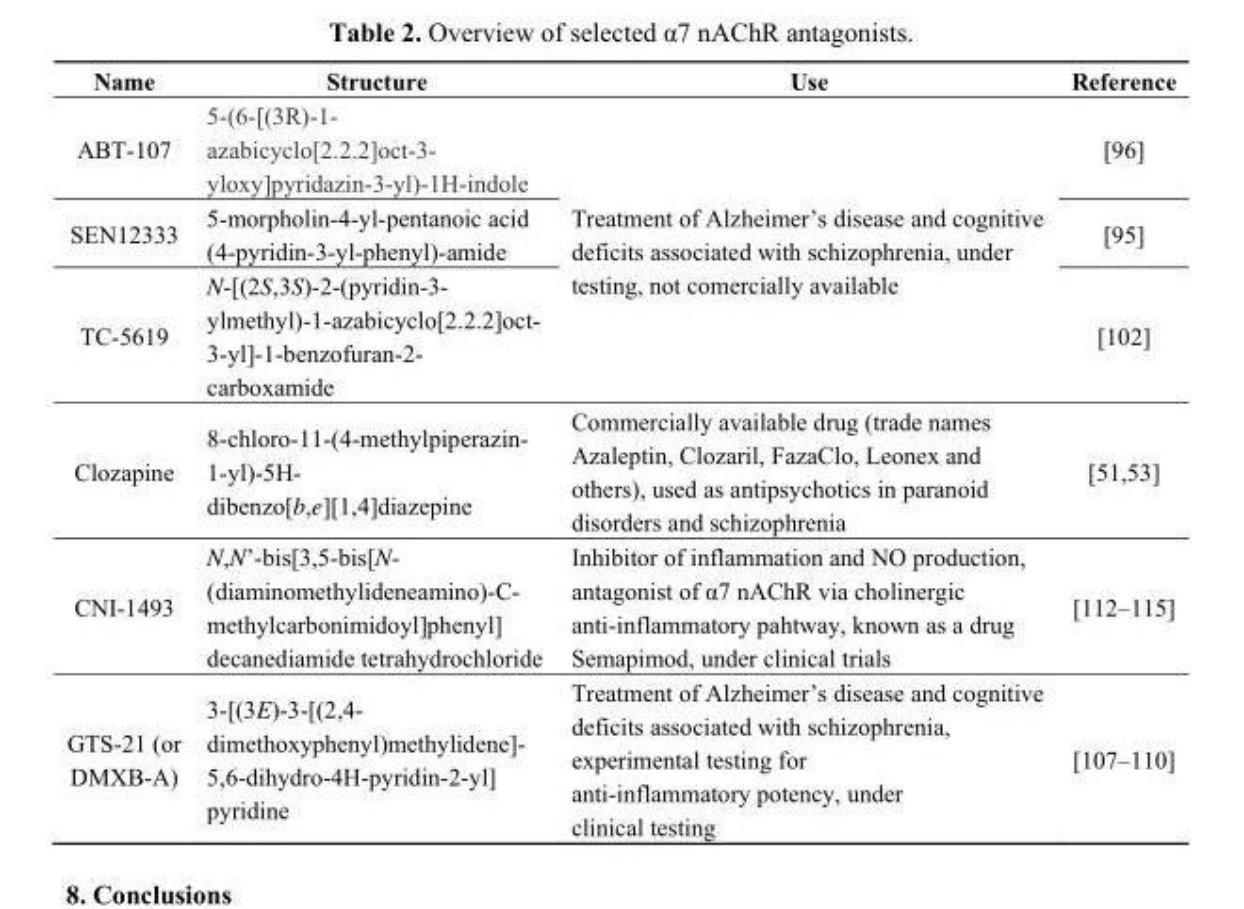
<table><thead><tr><td>Name</td><td>Structure</td><td>Use</td><td>Reference</td></tr></thead><tbody><tr><td>ABT-107</td><td>5-(6-[(3R)-1- azabicyclo[2.2.2]oct-3- yloxy]pyridazin-3-yl)-1H-indole</td><td rowspan="3">Treatment of Alzheimer’s disease and cognitive deficits associated with schizophrenia, under testing, not comercially available</td><td>[96]</td></tr><tr><td>SEN12333</td><td>5-morpholin-4-yl-pentanoic acid (4-pyridin-3-yl-phenyl)-amide</td><td>[95]</td></tr><tr><td>TC-5619</td><td>N-[(2S,3S)-2-(pyridin-3- ylmethyl)-1-azabicyclo[2.2.2]oct- 3-yl]-1-benzofuran-2- carboxamide</td><td>[102]</td></tr><tr><td>Clozapine</td><td>8-chloro-11-(4-methylpiperazin- 1-yl)-5H- dibenzo[b,e][1,4]diazepine</td><td>Commercially available drug (trade names Azaleptin, Clozaril, FazaClo, Leonex and others), used as antipsychotics in paranoid disorders and schizophrenia</td><td>[51,53]</td></tr><tr><td>CNI-1493</td><td>N,N’-bis[3,5-bis[N- (diaminomethylideneamino)-C- methylcarbonimidoyl]phenyl] decanediamide tetrahydrochloride</td><td>Inhibitor of inflammation and NO production, antagonist of α7 nAChR via cholinergic anti-inflammatory pahtway, known as a drug Semapimod, under clinical trials</td><td>[112–115]</td></tr><tr><td>GTS-21 (or DMXB-A)</td><td>3-[(3E)-3-[(2,4- dimethoxyphenyl)methylidene]- 5,6-dihydro-4H-pyridin-2-yl] pyridine</td><td>Treatment of Alzheimer’s disease and cognitive deficits associated with schizophrenia, experimental testing for anti-inflammatory potency, under clinical testing</td><td>[107–110]</td></tr></tbody></table>